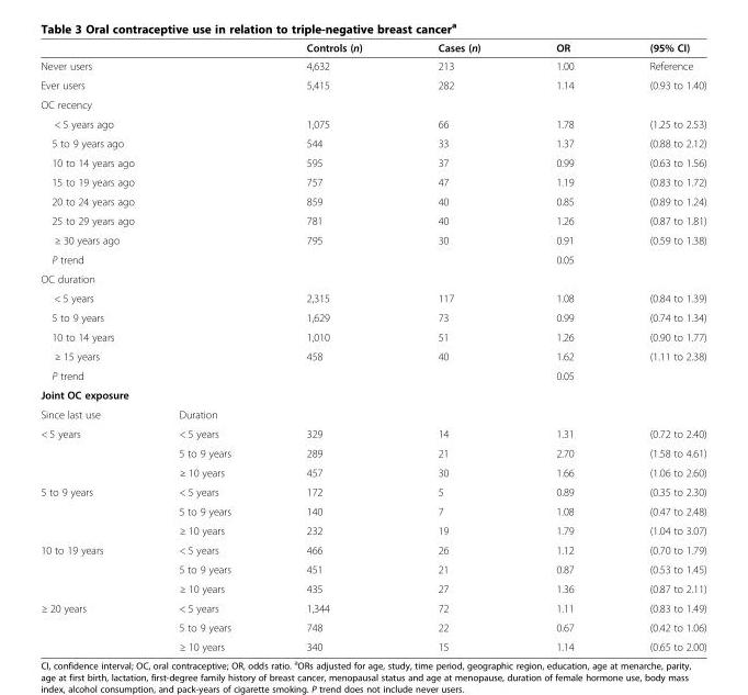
<table><thead><tr><td></td><td></td><td>Controls (n)</td><td>Cases (n)</td><td>OR</td><td>(95% CI)</td></tr></thead><tbody><tr><td colspan="2">Never users</td><td>4,632</td><td>213</td><td>1.00</td><td>Reference</td></tr><tr><td colspan="2">Ever users</td><td>5,415</td><td>282</td><td>1.14</td><td>(0.93 to 1.40)</td></tr><tr><td colspan="6">OC recency</td></tr><tr><td colspan="2">&lt; 5 years ago</td><td>1,075</td><td>66</td><td>1.78</td><td>(1.25 to 2.53)</td></tr><tr><td colspan="2">5 to 9 years ago</td><td>544</td><td>33</td><td>1.37</td><td>(0.88 to 2.12)</td></tr><tr><td colspan="2">10 to 14 years ago</td><td>595</td><td>37</td><td>0.99</td><td>(0.63 to 1.56)</td></tr><tr><td colspan="2">15 to 19 years ago</td><td>757</td><td>47</td><td>1.19</td><td>(0.83 to 1.72)</td></tr><tr><td colspan="2">20 to 24 years ago</td><td>859</td><td>40</td><td>0.85</td><td>(0.89 to 1.24)</td></tr><tr><td colspan="2">25 to 29 years ago</td><td>781</td><td>40</td><td>1.26</td><td>(0.87 to 1.81)</td></tr><tr><td colspan="2">≥ 30 years ago</td><td>795</td><td>30</td><td>0.91</td><td>(0.59 to 1.38)</td></tr><tr><td colspan="2">P trend</td><td></td><td></td><td colspan="2">0.05</td></tr><tr><td colspan="6">OC duration</td></tr><tr><td colspan="2">&lt; 5 years</td><td>2,315</td><td>117</td><td>1.08</td><td>(0.84 to 1.39)</td></tr><tr><td colspan="2">5 to 9 years</td><td>1,629</td><td>73</td><td>0.99</td><td>(0.74 to 1.34)</td></tr><tr><td colspan="2">10 to 14 years</td><td>1,010</td><td>51</td><td>1.26</td><td>(0.90 to 1.77)</td></tr><tr><td colspan="2">≥ 15 years</td><td>458</td><td>40</td><td>1.62</td><td>(1.11 to 2.38)</td></tr><tr><td colspan="2">P trend</td><td></td><td></td><td colspan="2">0.05</td></tr><tr><td colspan="6">Joint OC exposure</td></tr><tr><td>Since last use</td><td>Duration</td><td></td><td></td><td></td><td></td></tr><tr><td rowspan="3">&lt; 5 years</td><td>&lt; 5 years</td><td>329</td><td>14</td><td>1.31</td><td>(0.72 to 2.40)</td></tr><tr><td>5 to 9 years</td><td>289</td><td>21</td><td>2.70</td><td>(1.58 to 4.61)</td></tr><tr><td>≥ 10 years</td><td>457</td><td>30</td><td>1.66</td><td>(1.06 to 2.60)</td></tr><tr><td rowspan="3">5 to 9 years</td><td>&lt; 5 years</td><td>172</td><td>5</td><td>0.89</td><td>(0.35 to 2.30)</td></tr><tr><td>5 to 9 years</td><td>140</td><td>7</td><td>1.08</td><td>(0.47 to 2.48)</td></tr><tr><td>≥ 10 years</td><td>232</td><td>19</td><td>1.79</td><td>(1.04 to 3.07)</td></tr><tr><td rowspan="3">10 to 19 years</td><td>&lt; 5 years</td><td>466</td><td>26</td><td>1.12</td><td>(0.70 to 1.79)</td></tr><tr><td>5 to 9 years</td><td>451</td><td>21</td><td>0.87</td><td>(0.53 to 1.45)</td></tr><tr><td>≥ 10 years</td><td>435</td><td>27</td><td>1.36</td><td>(0.87 to 2.11)</td></tr><tr><td rowspan="3">≥ 20 years</td><td>&lt; 5 years</td><td>1,344</td><td>72</td><td>1.11</td><td>(0.83 to 1.49)</td></tr><tr><td>5 to 9 years</td><td>748</td><td>22</td><td>0.67</td><td>(0.42 to 1.06)</td></tr><tr><td>≥ 10 years</td><td>340</td><td>15</td><td>1.14</td><td>(0.65 to 2.00)</td></tr></tbody></table>